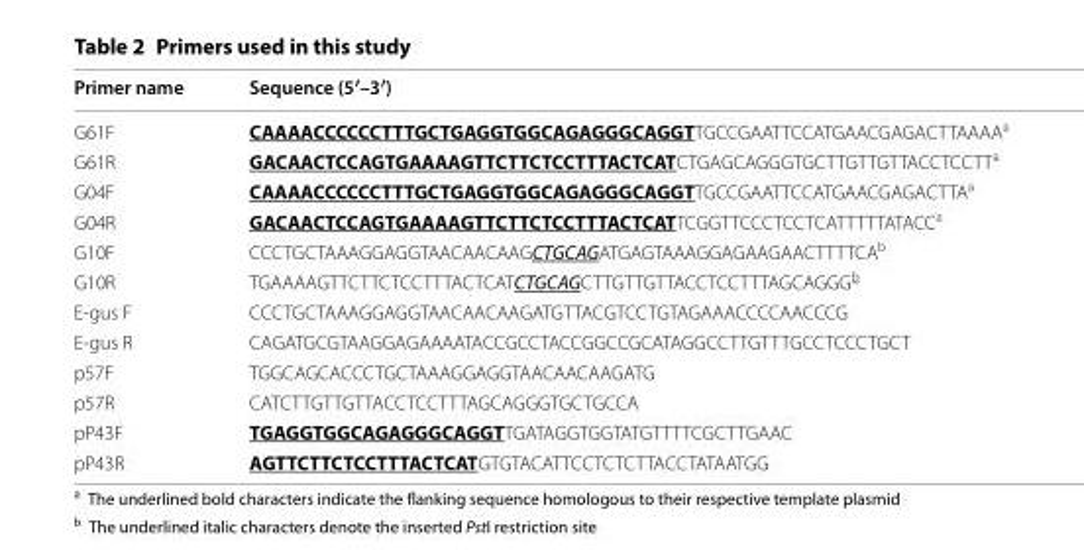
<table><thead><tr><td>Primer name</td><td>Sequence (5′–3′)</td></tr></thead><tbody><tr><td>G61F</td><td>CAAAACCCCCCTTTGCTGAGGTGGCAGAGGGCAGGTTGCCGAATTCCATGAACGAGACTTAAAA<sup>a</sup></td></tr><tr><td>G61R</td><td>GACAACTCCAGTGAAAAGTTCTTCTCCTTTACTCATCTGAGCAGGGTGCTTGTTGTTACCTCCTT<sup>a</sup></td></tr><tr><td>G04F</td><td>CAAAACCCCCCTTTGCTGAGGTGGCAGAGGGCAGGTTGCCGAATTCCATGAACGAGACTTA<sup>a</sup></td></tr><tr><td>G04R</td><td>GACAACTCCAGTGAAAAGTTCTTCTCCTTTACTCATTCGGTTCCCTCCTCATTTTTATACC<sup>a</sup></td></tr><tr><td>G10F</td><td>CCCTGCTAAAGGAGGTAACAACAAGCTGCAGATGAGTAAAGGAGAAGAACTTTTCA<sup>b</sup></td></tr><tr><td>G10R</td><td>TGAAAAGTTCTTCTCCTTTACTCATCTGCAGCTTGTTGTTACCTCCTTTAGCAGGG<sup>b</sup></td></tr><tr><td>E-gus F</td><td>CCCTGCTAAAGGAGGTAACAACAAGATGTTACGTCCTGTAGAAACCCCAACCCG</td></tr><tr><td>E-gus R</td><td>CAGATGCGTAAGGAGAAAATACCGCCTACCGGCCGCATAGGCCTTGTTTGCCTCCCTGCT</td></tr><tr><td>p57F</td><td>TGGCAGCACCCTGCTAAAGGAGGTAACAACAAGATG</td></tr><tr><td>p57R</td><td>CATCTTGTTGTTACCTCCTTTAGCAGGGTGCTGCCA</td></tr><tr><td>pP43F</td><td>TGAGGTGGCAGAGGGCAGGTTGATAGGTGGTATGTTTTCGCTTGAAC</td></tr><tr><td>pP43R</td><td>AGTTCTTCTCCTTTACTCATGTGTACATTCCTCTCTTACCTATAATGG</td></tr></tbody></table>